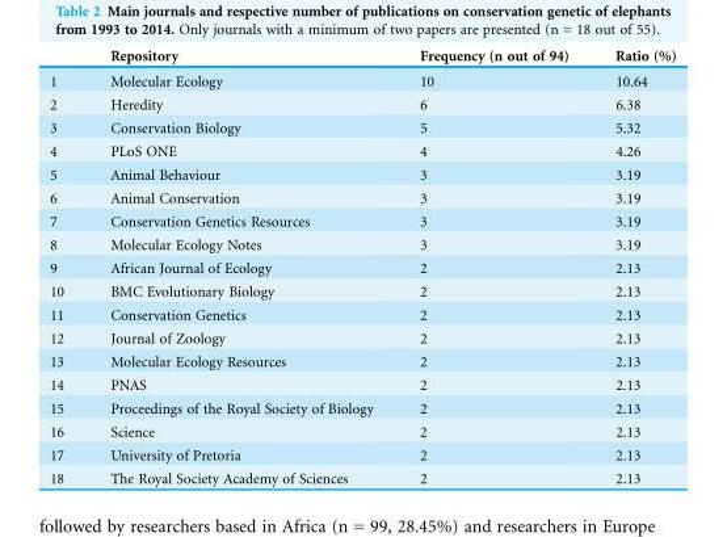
<table><thead><tr><td></td><td>Repository</td><td>Frequency (n out of 94)</td><td>Ratio (%)</td></tr></thead><tbody><tr><td>1</td><td>Molecular Ecology</td><td>10</td><td>10.64</td></tr><tr><td>2</td><td>Heredity</td><td>6</td><td>6.38</td></tr><tr><td>3</td><td>Conservation Biology</td><td>5</td><td>5.32</td></tr><tr><td>4</td><td>PLoS ONE</td><td>4</td><td>4.26</td></tr><tr><td>5</td><td>Animal Behaviour</td><td>3</td><td>3.19</td></tr><tr><td>6</td><td>Animal Conservation</td><td>3</td><td>3.19</td></tr><tr><td>7</td><td>Conservation Genetics Resources</td><td>3</td><td>3.19</td></tr><tr><td>8</td><td>Molecular Ecology Notes</td><td>3</td><td>3.19</td></tr><tr><td>9</td><td>African Journal of Ecology</td><td>2</td><td>2.13</td></tr><tr><td>10</td><td>BMC Evolutionary Biology</td><td>2</td><td>2.13</td></tr><tr><td>11</td><td>Conservation Genetics</td><td>2</td><td>2.13</td></tr><tr><td>12</td><td>Journal of Zoology</td><td>2</td><td>2.13</td></tr><tr><td>13</td><td>Molecular Ecology Resources</td><td>2</td><td>2.13</td></tr><tr><td>14</td><td>PNAS</td><td>2</td><td>2.13</td></tr><tr><td>15</td><td>Proceedings of the Royal Society of Biology</td><td>2</td><td>2.13</td></tr><tr><td>16</td><td>Science</td><td>2</td><td>2.13</td></tr><tr><td>17</td><td>University of Pretoria</td><td>2</td><td>2.13</td></tr><tr><td>18</td><td>The Royal Society Academy of Sciences</td><td>2</td><td>2.13</td></tr></tbody></table>